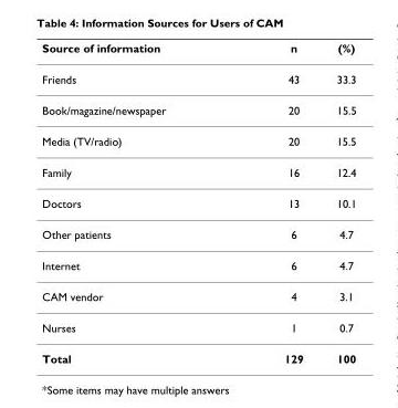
<table><thead><tr><td>Source of information</td><td>n</td><td>(%)</td></tr></thead><tbody><tr><td>Friends</td><td>43</td><td>33.3</td></tr><tr><td>Book/magazine/newspaper</td><td>20</td><td>15.5</td></tr><tr><td>Media (TV/radio)</td><td>20</td><td>15.5</td></tr><tr><td>Family</td><td>16</td><td>12.4</td></tr><tr><td>Doctors</td><td>13</td><td>10.1</td></tr><tr><td>Other patients</td><td>6</td><td>4.7</td></tr><tr><td>Internet</td><td>6</td><td>4.7</td></tr><tr><td>CAM vendor</td><td>4</td><td>3.1</td></tr><tr><td>Nurses</td><td>1</td><td>0.7</td></tr><tr><td>Total</td><td>129</td><td>100</td></tr></tbody></table>